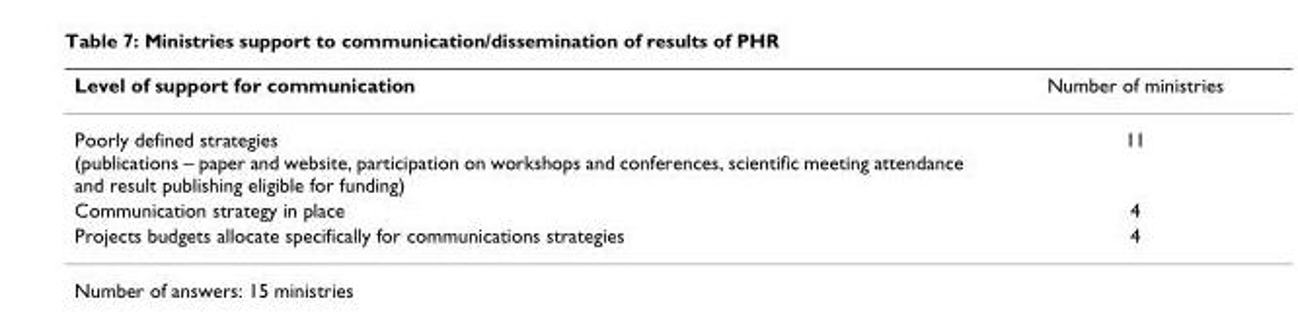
<table><thead><tr><td>Level of support for communication</td><td>Number of ministries</td></tr></thead><tbody><tr><td>Poorly defined strategies (publications – paper and website, participation on workshops and conferences, scientific meeting attendance and result publishing eligible for funding)</td><td>11</td></tr><tr><td>Communication strategy in place</td><td>4</td></tr><tr><td>Projects budgets allocate specifically for communications strategies</td><td>4</td></tr></tbody></table>